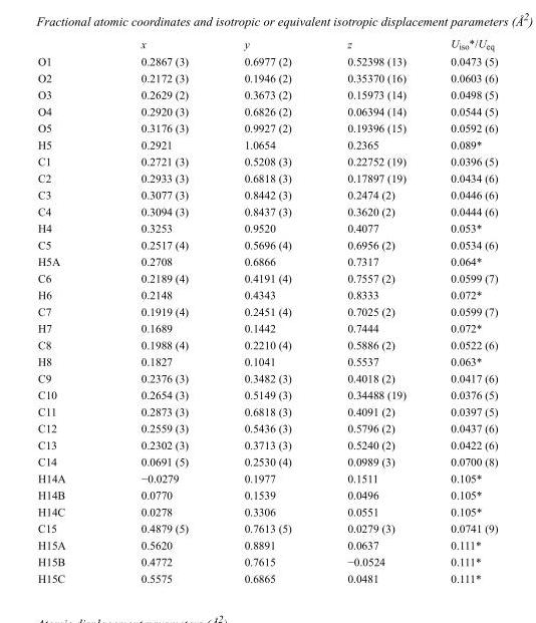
<table><thead><tr><td></td><td>x</td><td>y</td><td>z</td><td>U<sub>iso</sub>*/U<sub>eq</sub></td></tr></thead><tbody><tr><td>O1</td><td>0.2867 (3)</td><td>0.6977 (2)</td><td>0.52398 (13)</td><td>0.0473 (5)</td></tr><tr><td>O2</td><td>0.2172 (3)</td><td>0.1946 (2)</td><td>0.35370 (16)</td><td>0.0603 (6)</td></tr><tr><td>O3</td><td>0.2629 (2)</td><td>0.3673 (2)</td><td>0.15973 (14)</td><td>0.0498 (5)</td></tr><tr><td>O4</td><td>0.2920 (3)</td><td>0.6826 (2)</td><td>0.06394 (14)</td><td>0.0544 (5)</td></tr><tr><td>O5</td><td>0.3176 (3)</td><td>0.9927 (2)</td><td>0.19396 (15)</td><td>0.0592 (6)</td></tr><tr><td>H5</td><td>0.2921</td><td>1.0654</td><td>0.2365</td><td>0.089*</td></tr><tr><td>C1</td><td>0.2721 (3)</td><td>0.5208 (3)</td><td>0.22752 (19)</td><td>0.0396 (5)</td></tr><tr><td>C2</td><td>0.2933 (3)</td><td>0.6818 (3)</td><td>0.17897 (19)</td><td>0.0434 (6)</td></tr><tr><td>C3</td><td>0.3077 (3)</td><td>0.8442 (3)</td><td>0.2474 (2)</td><td>0.0446 (6)</td></tr><tr><td>C4</td><td>0.3094 (3)</td><td>0.8437 (3)</td><td>0.3620 (2)</td><td>0.0444 (6)</td></tr><tr><td>H4</td><td>0.3253</td><td>0.9520</td><td>0.4077</td><td>0.053*</td></tr><tr><td>C5</td><td>0.2517 (4)</td><td>0.5696 (4)</td><td>0.6956 (2)</td><td>0.0534 (6)</td></tr><tr><td>H5A</td><td>0.2708</td><td>0.6866</td><td>0.7317</td><td>0.064*</td></tr><tr><td>C6</td><td>0.2189 (4)</td><td>0.4191 (4)</td><td>0.7557 (2)</td><td>0.0599 (7)</td></tr><tr><td>H6</td><td>0.2148</td><td>0.4343</td><td>0.8333</td><td>0.072*</td></tr><tr><td>C7</td><td>0.1919 (4)</td><td>0.2451 (4)</td><td>0.7025 (2)</td><td>0.0599 (7)</td></tr><tr><td>H7</td><td>0.1689</td><td>0.1442</td><td>0.7444</td><td>0.072*</td></tr><tr><td>C8</td><td>0.1988 (4)</td><td>0.2210 (4)</td><td>0.5886 (2)</td><td>0.0522 (6)</td></tr><tr><td>H8</td><td>0.1827</td><td>0.1041</td><td>0.5537</td><td>0.063*</td></tr><tr><td>C9</td><td>0.2376 (3)</td><td>0.3482 (3)</td><td>0.4018 (2)</td><td>0.0417 (6)</td></tr><tr><td>C10</td><td>0.2654 (3)</td><td>0.5149 (3)</td><td>0.34488 (19)</td><td>0.0376 (5)</td></tr><tr><td>C11</td><td>0.2873 (3)</td><td>0.6818 (3)</td><td>0.4091 (2)</td><td>0.0397 (5)</td></tr><tr><td>C12</td><td>0.2559 (3)</td><td>0.5436 (3)</td><td>0.5796 (2)</td><td>0.0437 (6)</td></tr><tr><td>C13</td><td>0.2302 (3)</td><td>0.3713 (3)</td><td>0.5240 (2)</td><td>0.0422 (6)</td></tr><tr><td>C14</td><td>0.0691 (5)</td><td>0.2530 (4)</td><td>0.0989 (3)</td><td>0.0700 (8)</td></tr><tr><td>H14A</td><td>−0.0279</td><td>0.1977</td><td>0.1511</td><td>0.105*</td></tr><tr><td>H14B</td><td>0.0770</td><td>0.1539</td><td>0.0496</td><td>0.105*</td></tr><tr><td>H14C</td><td>0.0278</td><td>0.3306</td><td>0.0551</td><td>0.105*</td></tr><tr><td>C15</td><td>0.4879 (5)</td><td>0.7613 (5)</td><td>0.0279 (3)</td><td>0.0741 (9)</td></tr><tr><td>H15A</td><td>0.5620</td><td>0.8891</td><td>0.0637</td><td>0.111*</td></tr><tr><td>H15B</td><td>0.4772</td><td>0.7615</td><td>−0.0524</td><td>0.111*</td></tr><tr><td>H15C</td><td>0.5575</td><td>0.6865</td><td>0.0481</td><td>0.111*</td></tr></tbody></table>